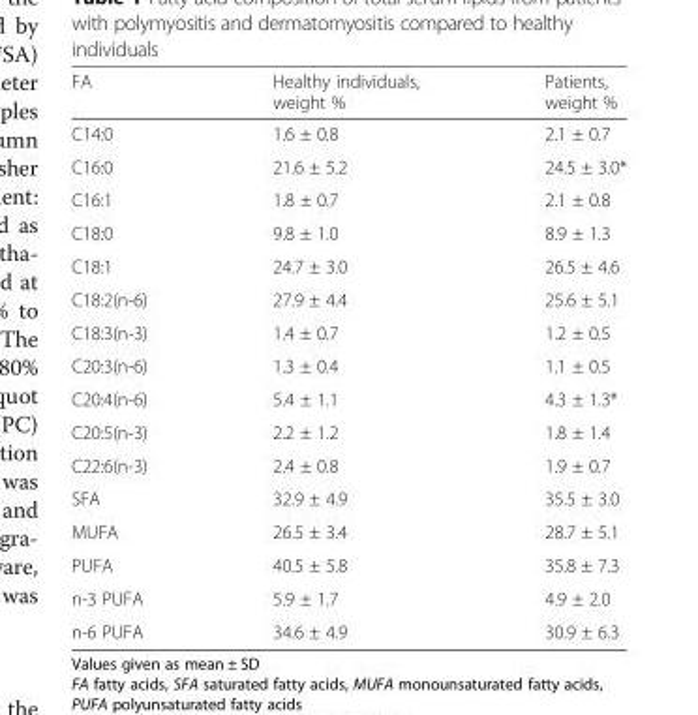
<table><thead><tr><td>FA</td><td>Healthy individuals, weight %</td><td>Patients, weight %</td></tr></thead><tbody><tr><td>C14:0</td><td>1.6 ± 0.8</td><td>2.1 ± 0.7</td></tr><tr><td>C16:0</td><td>21.6 ± 5.2</td><td>24.5 ± 3.0*</td></tr><tr><td>C16:1</td><td>1.8 ± 0.7</td><td>2.1 ± 0.8</td></tr><tr><td>C18:0</td><td>9.8 ± 1.0</td><td>8.9 ± 1.3</td></tr><tr><td>C18:1</td><td>24.7 ± 3.0</td><td>26.5 ± 4.6</td></tr><tr><td>C18:2(n-6)</td><td>27.9 ± 4.4</td><td>25.6 ± 5.1</td></tr><tr><td>C18:3(n-3)</td><td>1.4 ± 0.7</td><td>1.2 ± 0.5</td></tr><tr><td>C20:3(n-6)</td><td>1.3 ± 0.4</td><td>1.1 ± 0.5</td></tr><tr><td>C20:4(n-6)</td><td>5.4 ± 1.1</td><td>4.3 ± 1.3*</td></tr><tr><td>C20:5(n-3)</td><td>2.2 ± 1.2</td><td>1.8 ± 1.4</td></tr><tr><td>C22:6(n-3)</td><td>2.4 ± 0.8</td><td>1.9 ± 0.7</td></tr><tr><td>SFA</td><td>32.9 ± 4.9</td><td>35.5 ± 3.0</td></tr><tr><td>MUFA</td><td>26.5 ± 3.4</td><td>28.7 ± 5.1</td></tr><tr><td>PUFA</td><td>40.5 ± 5.8</td><td>35.8 ± 7.3</td></tr><tr><td>n-3 PUFA</td><td>5.9 ± 1.7</td><td>4.9 ± 2.0</td></tr><tr><td>n-6 PUFA</td><td>34.6 ± 4.9</td><td>30.9 ± 6.3</td></tr></tbody></table>